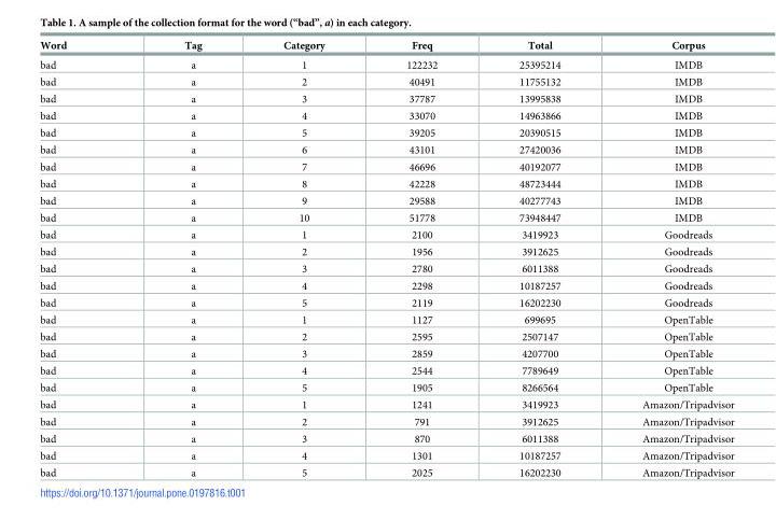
<table><thead><tr><td>Word</td><td>Tag</td><td>Category</td><td>Freq</td><td>Total</td><td>Corpus</td></tr></thead><tbody><tr><td>bad</td><td>a</td><td>1</td><td>122232</td><td>25395214</td><td>IMDB</td></tr><tr><td>bad</td><td>a</td><td>2</td><td>40491</td><td>11755132</td><td>IMDB</td></tr><tr><td>bad</td><td>a</td><td>3</td><td>37787</td><td>13995838</td><td>IMDB</td></tr><tr><td>bad</td><td>a</td><td>4</td><td>33070</td><td>14963866</td><td>IMDB</td></tr><tr><td>bad</td><td>a</td><td>5</td><td>39205</td><td>20390515</td><td>IMDB</td></tr><tr><td>bad</td><td>a</td><td>6</td><td>43101</td><td>27420036</td><td>IMDB</td></tr><tr><td>bad</td><td>a</td><td>7</td><td>46696</td><td>40192077</td><td>IMDB</td></tr><tr><td>bad</td><td>a</td><td>8</td><td>42228</td><td>48723444</td><td>IMDB</td></tr><tr><td>bad</td><td>a</td><td>9</td><td>29588</td><td>40277743</td><td>IMDB</td></tr><tr><td>bad</td><td>a</td><td>10</td><td>51778</td><td>73948447</td><td>IMDB</td></tr><tr><td>bad</td><td>a</td><td>1</td><td>2100</td><td>3419923</td><td>Goodreads</td></tr><tr><td>bad</td><td>a</td><td>2</td><td>1956</td><td>3912625</td><td>Goodreads</td></tr><tr><td>bad</td><td>a</td><td>3</td><td>2780</td><td>6011388</td><td>Goodreads</td></tr><tr><td>bad</td><td>a</td><td>4</td><td>2298</td><td>10187257</td><td>Goodreads</td></tr><tr><td>bad</td><td>a</td><td>5</td><td>2119</td><td>16202230</td><td>Goodreads</td></tr><tr><td>bad</td><td>a</td><td>1</td><td>1127</td><td>699695</td><td>OpenTable</td></tr><tr><td>bad</td><td>a</td><td>2</td><td>2595</td><td>2507147</td><td>OpenTable</td></tr><tr><td>bad</td><td>a</td><td>3</td><td>2859</td><td>4207700</td><td>OpenTable</td></tr><tr><td>bad</td><td>a</td><td>4</td><td>2544</td><td>7789649</td><td>OpenTable</td></tr><tr><td>bad</td><td>a</td><td>5</td><td>1905</td><td>8266564</td><td>OpenTable</td></tr><tr><td>bad</td><td>a</td><td>1</td><td>1241</td><td>3419923</td><td>Amazon/Tripadvisor</td></tr><tr><td>bad</td><td>a</td><td>2</td><td>791</td><td>3912625</td><td>Amazon/Tripadvisor</td></tr><tr><td>bad</td><td>a</td><td>3</td><td>870</td><td>6011388</td><td>Amazon/Tripadvisor</td></tr><tr><td>bad</td><td>a</td><td>4</td><td>1301</td><td>10187257</td><td>Amazon/Tripadvisor</td></tr><tr><td>bad</td><td>a</td><td>5</td><td>2025</td><td>16202230</td><td>Amazon/Tripadvisor</td></tr></tbody></table>